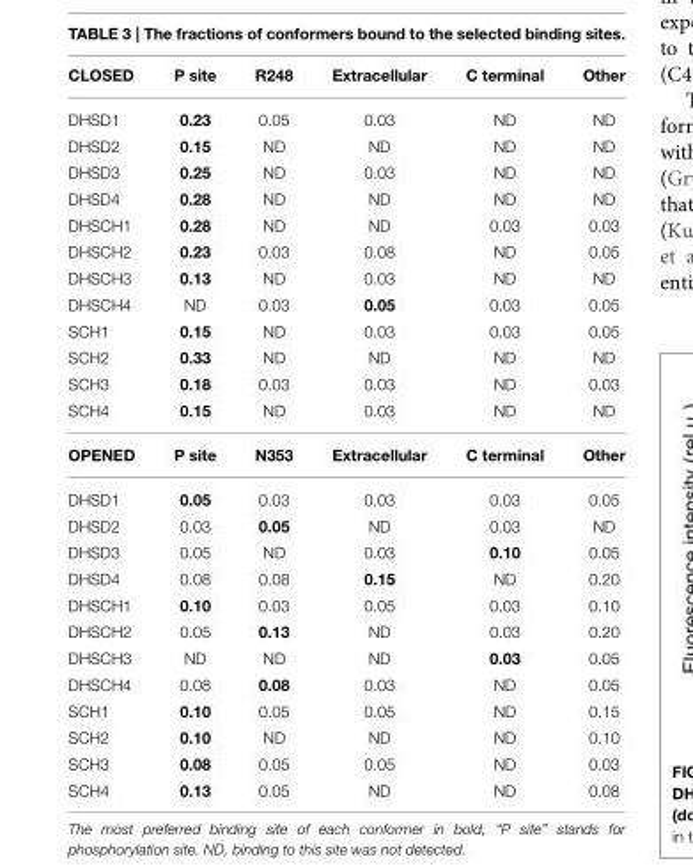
<table><thead><tr><td>CLOSED</td><td>P site</td><td>R248</td><td>Extracellular</td><td>C terminal</td><td>Other</td></tr></thead><tbody><tr><td>DHSD1</td><td>0.23</td><td>0.05</td><td>0.03</td><td>ND</td><td>ND</td></tr><tr><td>DHSD2</td><td>0.15</td><td>ND</td><td>ND</td><td>ND</td><td>ND</td></tr><tr><td>DHSD3</td><td>0.25</td><td>ND</td><td>0.03</td><td>ND</td><td>ND</td></tr><tr><td>DHSD4</td><td>0.28</td><td>ND</td><td>ND</td><td>ND</td><td>ND</td></tr><tr><td>DHSCH1</td><td>0.28</td><td>ND</td><td>ND</td><td>0.03</td><td>0.03</td></tr><tr><td>DHSCH2</td><td>0.23</td><td>0.03</td><td>0.08</td><td>ND</td><td>0.05</td></tr><tr><td>DHSCH3</td><td>0.13</td><td>ND</td><td>0.03</td><td>ND</td><td>ND</td></tr><tr><td>DHSCH4</td><td>ND</td><td>0.03</td><td>0.05</td><td>0.03</td><td>0.05</td></tr><tr><td>SCH1</td><td>0.15</td><td>ND</td><td>0.03</td><td>0.03</td><td>0.05</td></tr><tr><td>SCH2</td><td>0.33</td><td>ND</td><td>ND</td><td>ND</td><td>ND</td></tr><tr><td>SCH3</td><td>0.18</td><td>0.03</td><td>0.03</td><td>ND</td><td>0.03</td></tr><tr><td>SCH4</td><td>0.15</td><td>ND</td><td>0.03</td><td>ND</td><td>ND</td></tr><tr><td>OPENED</td><td>P site</td><td>N353</td><td>Extracellular</td><td>C terminal</td><td>Other</td></tr><tr><td>DHSD1</td><td>0.05</td><td>0.03</td><td>0.03</td><td>0.03</td><td>0.05</td></tr><tr><td>DHSD2</td><td>0.03</td><td>0.05</td><td>ND</td><td>0.03</td><td>ND</td></tr><tr><td>DHSD3</td><td>0.05</td><td>ND</td><td>0.03</td><td>0.10</td><td>0.05</td></tr><tr><td>DHSD4</td><td>0.08</td><td>0.08</td><td>0.15</td><td>ND</td><td>0.20</td></tr><tr><td>DHSCH1</td><td>0.10</td><td>0.03</td><td>0.05</td><td>0.03</td><td>0.10</td></tr><tr><td>DHSCH2</td><td>0.05</td><td>0.13</td><td>ND</td><td>0.03</td><td>0.20</td></tr><tr><td>DHSCH3</td><td>ND</td><td>ND</td><td>ND</td><td>0.03</td><td>0.05</td></tr><tr><td>DHSCH4</td><td>0.08</td><td>0.08</td><td>0.03</td><td>ND</td><td>0.05</td></tr><tr><td>SCH1</td><td>0.10</td><td>0.05</td><td>0.05</td><td>ND</td><td>0.15</td></tr><tr><td>SCH2</td><td>0.10</td><td>ND</td><td>ND</td><td>ND</td><td>0.10</td></tr><tr><td>SCH3</td><td>0.08</td><td>0.05</td><td>0.05</td><td>ND</td><td>0.03</td></tr><tr><td>SCH4</td><td>0.13</td><td>0.05</td><td>ND</td><td>ND</td><td>0.08</td></tr></tbody></table>